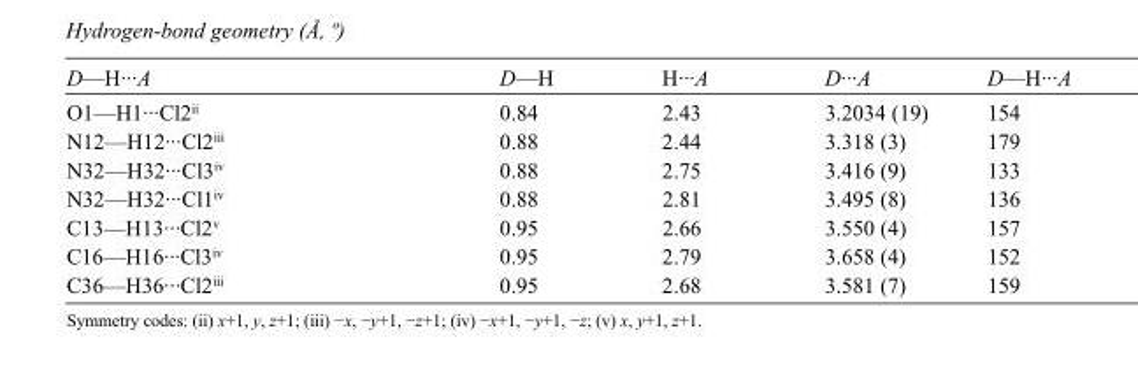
<table><tbody><tr><td>D—H···A</td><td>D—H</td><td>H···A</td><td>D···A</td><td>D—H···A</td></tr><tr><td>O1—H1···Cl2<sup>ii</sup></td><td>0.84</td><td>2.43</td><td>3.2034 (19)</td><td>154</td></tr><tr><td>N12—H12···Cl2<sup>iii</sup></td><td>0.88</td><td>2.44</td><td>3.318 (3)</td><td>179</td></tr><tr><td>N32—H32···Cl3<sup>iv</sup></td><td>0.88</td><td>2.75</td><td>3.416 (9)</td><td>133</td></tr><tr><td>N32—H32···Cl1<sup>iv</sup></td><td>0.88</td><td>2.81</td><td>3.495 (8)</td><td>136</td></tr><tr><td>C13—H13···Cl2<sup>v</sup></td><td>0.95</td><td>2.66</td><td>3.550 (4)</td><td>157</td></tr><tr><td>C16—H16···Cl3<sup>iv</sup></td><td>0.95</td><td>2.79</td><td>3.658 (4)</td><td>152</td></tr><tr><td>C36—H36···Cl2<sup>iii</sup></td><td>0.95</td><td>2.68</td><td>3.581 (7)</td><td>159</td></tr></tbody></table>